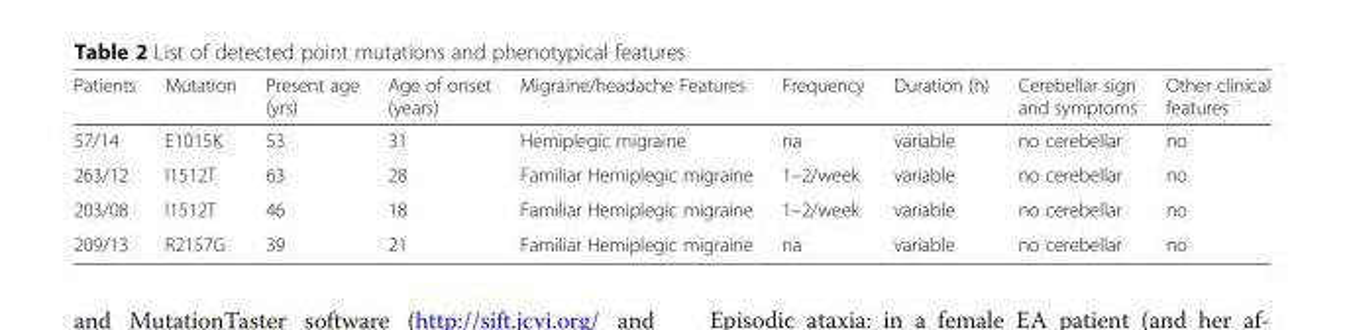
<table><thead><tr><td>Patients</td><td>Mutation</td><td>Present age (yrs)</td><td>Age of onset (years)</td><td>Migraine/headache Features</td><td>Frequency</td><td>Duration (h)</td><td>Cerebellar sign and symptoms</td><td>Other clinical features</td></tr></thead><tbody><tr><td>57/14</td><td>E1015K</td><td>53</td><td>31</td><td>Hemiplegic migraine</td><td>na</td><td>variable</td><td>no cerebellar</td><td>no</td></tr><tr><td>263/12</td><td>I1512T</td><td>63</td><td>28</td><td>Familiar Hemiplegic migraine</td><td>1–2/week</td><td>variable</td><td>no cerebellar</td><td>no</td></tr><tr><td>203/08</td><td>I1512T</td><td>46</td><td>18</td><td>Familiar Hemiplegic migraine</td><td>1–2/week</td><td>variable</td><td>no cerebellar</td><td>no</td></tr><tr><td>209/13</td><td>R2157G</td><td>39</td><td>21</td><td>Familiar Hemiplegic migraine</td><td>na</td><td>variable</td><td>no cerebellar</td><td>no</td></tr></tbody></table>